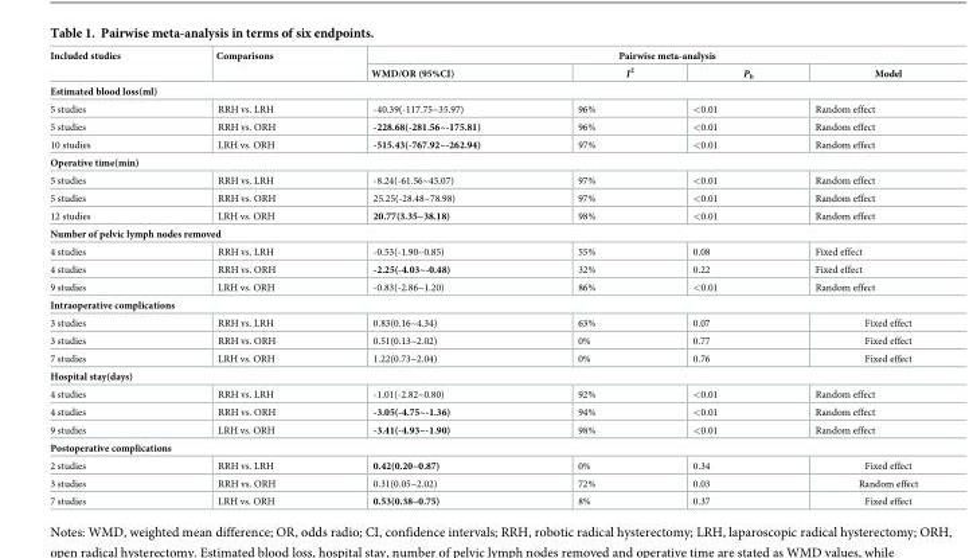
<table><thead><tr><td rowspan="2">Included studies</td><td rowspan="2">Comparisons</td><td colspan="4">Pairwise meta-analysis</td></tr><tr><td>WMD/OR (95%CI)</td><td>I<sup>2</sup></td><td>P<sub>h</sub></td><td>Model</td></tr></thead><tbody><tr><td colspan="6">Estimated blood loss(ml)</td></tr><tr><td>5 studies</td><td>RRH vs. LRH</td><td>-40.39(-117.75~35.97)</td><td>96%</td><td>&lt;0.01</td><td>Random effect</td></tr><tr><td>5 studies</td><td>RRH vs. ORH</td><td>-228.68(-281.56~-175.81)</td><td>96%</td><td>&lt;0.01</td><td>Random effect</td></tr><tr><td>10 studies</td><td>LRH vs. ORH</td><td>-515.43(-767.92~-262.94)</td><td>97%</td><td>&lt;0.01</td><td>Random effect</td></tr><tr><td colspan="6">Operative time(min)</td></tr><tr><td>5 studies</td><td>RRH vs. LRH</td><td>-8.24(-61.56~45.07)</td><td>97%</td><td>&lt;0.01</td><td>Random effect</td></tr><tr><td>5 studies</td><td>RRH vs. ORH</td><td>25.25(-28.48~78.98)</td><td>97%</td><td>&lt;0.01</td><td>Random effect</td></tr><tr><td>12 studies</td><td>LRH vs. ORH</td><td>20.77(3.35~38.18)</td><td>98%</td><td>&lt;0.01</td><td>Random effect</td></tr><tr><td colspan="6">Number of pelvic lymph nodes removed</td></tr><tr><td>4 studies</td><td>RRH vs. LRH</td><td>-0.53(-1.90~0.85)</td><td>55%</td><td>0.08</td><td>Fixed effect</td></tr><tr><td>4 studies</td><td>RRH vs. ORH</td><td>-2.25(-4.03~-0.48)</td><td>32%</td><td>0.22</td><td>Fixed effect</td></tr><tr><td>9 studies</td><td>LRH vs. ORH</td><td>-0.83(-2.86~1.20)</td><td>86%</td><td>&lt;0.01</td><td>Random effect</td></tr><tr><td colspan="6">Intraoperative complications</td></tr><tr><td>3 studies</td><td>RRH vs. LRH</td><td>0.83(0.16~4.34)</td><td>63%</td><td>0.07</td><td>Fixed effect</td></tr><tr><td>3 studies</td><td>RRH vs. ORH</td><td>0.51(0.13~2.02)</td><td>0%</td><td>0.77</td><td>Fixed effect</td></tr><tr><td>7 studies</td><td>LRH vs. ORH</td><td>1.22(0.73~2.04)</td><td>0%</td><td>0.76</td><td>Fixed effect</td></tr><tr><td colspan="6">Hospital stay(days)</td></tr><tr><td>4 studies</td><td>RRH vs. LRH</td><td>-1.01(-2.82~0.80)</td><td>92%</td><td>&lt;0.01</td><td>Random effect</td></tr><tr><td>4 studies</td><td>RRH vs. ORH</td><td>-3.05(-4.75~-1.36)</td><td>94%</td><td>&lt;0.01</td><td>Random effect</td></tr><tr><td>9 studies</td><td>LRH vs. ORH</td><td>-3.41(-4.93~-1.90)</td><td>98%</td><td>&lt;0.01</td><td>Random effect</td></tr><tr><td colspan="6">Postoperative complications</td></tr><tr><td>2 studies</td><td>RRH vs. LRH</td><td>0.42(0.20~0.87)</td><td>0%</td><td>0.34</td><td>Fixed effect</td></tr><tr><td>3 studies</td><td>RRH vs. ORH</td><td>0.31(0.05~2.02)</td><td>72%</td><td>0.03</td><td>Random effect</td></tr><tr><td>7 studies</td><td>LRH vs. ORH</td><td>0.53(0.38~0.75)</td><td>8%</td><td>0.37</td><td>Fixed effect</td></tr></tbody></table>